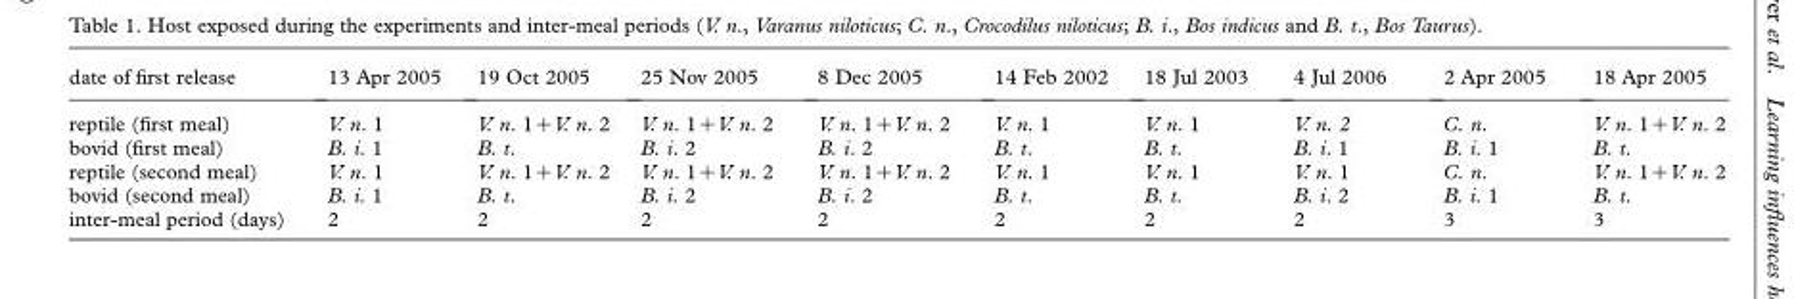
<table><thead><tr><td>date of first release</td><td>13 Apr 2005</td><td>19 Oct 2005</td><td>25 Nov 2005</td><td>8 Dec 2005</td><td>14 Feb 2002</td><td>18 Jul 2003</td><td>4 Jul 2006</td><td>2 Apr 2005</td><td>18 Apr 2005</td></tr></thead><tbody><tr><td>reptile (first meal)</td><td>V. n. 1</td><td>V. n. 1+V. n. 2</td><td>V. n. 1+V. n. 2</td><td>V. n. 1+V. n. 2</td><td>V. n. 1</td><td>V. n. 1</td><td>V. n. 2</td><td>C. n.</td><td>V. n. 1+V. n. 2</td></tr><tr><td>bovid (first meal)</td><td>B. i. 1</td><td>B. t.</td><td>B. i. 2</td><td>B. i. 2</td><td>B. t.</td><td>B. t.</td><td>B. i. 1</td><td>B. i. 1</td><td>B. t.</td></tr><tr><td>reptile (second meal)</td><td>V. n. 1</td><td>V. n. 1+V. n. 2</td><td>V. n. 1+V. n. 2</td><td>V. n. 1+V. n. 2</td><td>V. n. 1</td><td>V. n. 1</td><td>V. n. 1</td><td>C. n.</td><td>V. n. 1+V. n. 2</td></tr><tr><td>bovid (second meal)</td><td>B. i. 1</td><td>B. t.</td><td>B. i. 2</td><td>B. i. 2</td><td>B. t.</td><td>B. t.</td><td>B. i. 2</td><td>B. i. 1</td><td>B. t.</td></tr><tr><td>inter-meal period (days)</td><td>2</td><td>2</td><td>2</td><td>2</td><td>2</td><td>2</td><td>2</td><td>3</td><td>3</td></tr></tbody></table>